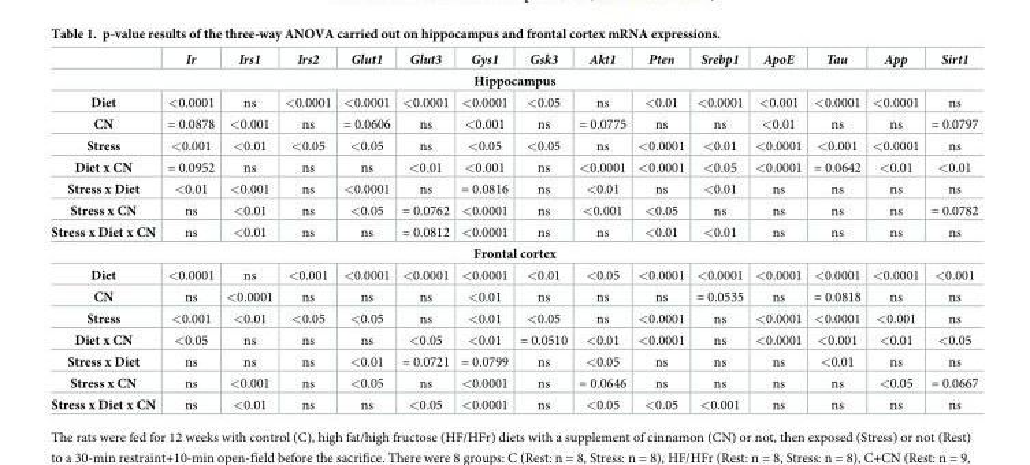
<table><thead><tr><td></td><td>Ir</td><td>Irs1</td><td>Irs2</td><td>Glut1</td><td>Glut3</td><td>Gys1</td><td>Gsk3</td><td>Akt1</td><td>Pten</td><td>Srebp1</td><td>ApoE</td><td>Tau</td><td>App</td><td>Sirt1</td></tr></thead><tbody><tr><td colspan="15">Hippocampus</td></tr><tr><td>Diet</td><td>&lt;0.0001</td><td>ns</td><td>&lt;0.0001</td><td>&lt;0.0001</td><td>&lt;0.0001</td><td>&lt;0.0001</td><td>&lt;0.05</td><td>ns</td><td>&lt;0.01</td><td>&lt;0.0001</td><td>&lt;0.001</td><td>&lt;0.0001</td><td>&lt;0.0001</td><td>ns</td></tr><tr><td>CN</td><td>= 0.0878</td><td>&lt;0.001</td><td>ns</td><td>= 0.0606</td><td>ns</td><td>&lt;0.001</td><td>ns</td><td>= 0.0775</td><td>ns</td><td>ns</td><td>&lt;0.01</td><td>ns</td><td>ns</td><td>= 0.0797</td></tr><tr><td>Stress</td><td>&lt;0.001</td><td>&lt;0.01</td><td>&lt;0.05</td><td>&lt;0.05</td><td>ns</td><td>&lt;0.05</td><td>&lt;0.05</td><td>ns</td><td>&lt;0.0001</td><td>&lt;0.01</td><td>&lt;0.0001</td><td>&lt;0.001</td><td>&lt;0.0001</td><td>ns</td></tr><tr><td>Diet x CN</td><td>= 0.0952</td><td>ns</td><td>ns</td><td>ns</td><td>&lt;0.01</td><td>&lt;0.001</td><td>ns</td><td>&lt;0.0001</td><td>&lt;0.0001</td><td>&lt;0.05</td><td>&lt;0.0001</td><td>= 0.0642</td><td>&lt;0.01</td><td>&lt;0.01</td></tr><tr><td>Stress x Diet</td><td>&lt;0.01</td><td>&lt;0.001</td><td>ns</td><td>&lt;0.0001</td><td>ns</td><td>= 0.0816</td><td>ns</td><td>&lt;0.01</td><td>ns</td><td>&lt;0.01</td><td>ns</td><td>ns</td><td>ns</td><td>ns</td></tr><tr><td>Stress x CN</td><td>ns</td><td>&lt;0.01</td><td>ns</td><td>&lt;0.05</td><td>= 0.0762</td><td>&lt;0.0001</td><td>ns</td><td>&lt;0.001</td><td>&lt;0.05</td><td>ns</td><td>ns</td><td>ns</td><td>ns</td><td>= 0.0782</td></tr><tr><td>Stress x Diet x CN</td><td>ns</td><td>&lt;0.01</td><td>ns</td><td>ns</td><td>= 0.0812</td><td>&lt;0.0001</td><td>ns</td><td>ns</td><td>&lt;0.01</td><td>&lt;0.01</td><td>ns</td><td>ns</td><td>ns</td><td>ns</td></tr><tr><td colspan="15">Frontal cortex</td></tr><tr><td>Diet</td><td>&lt;0.0001</td><td>ns</td><td>&lt;0.001</td><td>&lt;0.0001</td><td>&lt;0.0001</td><td>&lt;0.0001</td><td>&lt;0.01</td><td>&lt;0.05</td><td>&lt;0.0001</td><td>&lt;0.0001</td><td>&lt;0.0001</td><td>&lt;0.0001</td><td>&lt;0.0001</td><td>&lt;0.001</td></tr><tr><td>CN</td><td>ns</td><td>&lt;0.0001</td><td>ns</td><td>ns</td><td>ns</td><td>&lt;0.01</td><td>ns</td><td>ns</td><td>ns</td><td>= 0.0535</td><td>ns</td><td>= 0.0818</td><td>ns</td><td>ns</td></tr><tr><td>Stress</td><td>&lt;0.001</td><td>&lt;0.01</td><td>&lt;0.05</td><td>&lt;0.05</td><td>ns</td><td>&lt;0.01</td><td>&lt;0.05</td><td>ns</td><td>&lt;0.0001</td><td>ns</td><td>&lt;0.0001</td><td>&lt;0.0001</td><td>&lt;0.001</td><td>ns</td></tr><tr><td>Diet x CN</td><td>&lt;0.05</td><td>ns</td><td>ns</td><td>ns</td><td>&lt;0.05</td><td>&lt;0.01</td><td>= 0.0510</td><td>&lt;0.01</td><td>&lt;0.0001</td><td>ns</td><td>&lt;0.0001</td><td>&lt;0.001</td><td>&lt;0.01</td><td>&lt;0.05</td></tr><tr><td>Stress x Diet</td><td>ns</td><td>ns</td><td>ns</td><td>&lt;0.01</td><td>= 0.0721</td><td>= 0.0799</td><td>ns</td><td>&lt;0.05</td><td>ns</td><td>ns</td><td>ns</td><td>&lt;0.01</td><td>ns</td><td>ns</td></tr><tr><td>Stress x CN</td><td>ns</td><td>&lt;0.001</td><td>ns</td><td>&lt;0.05</td><td>ns</td><td>&lt;0.0001</td><td>ns</td><td>= 0.0646</td><td>ns</td><td>ns</td><td>ns</td><td>ns</td><td>&lt;0.05</td><td>= 0.0667</td></tr><tr><td>Stress x Diet x CN</td><td>ns</td><td>&lt;0.01</td><td>ns</td><td>ns</td><td>&lt;0.05</td><td>&lt;0.0001</td><td>ns</td><td>&lt;0.05</td><td>&lt;0.05</td><td>&lt;0.001</td><td>ns</td><td>ns</td><td>ns</td><td>ns</td></tr></tbody></table>